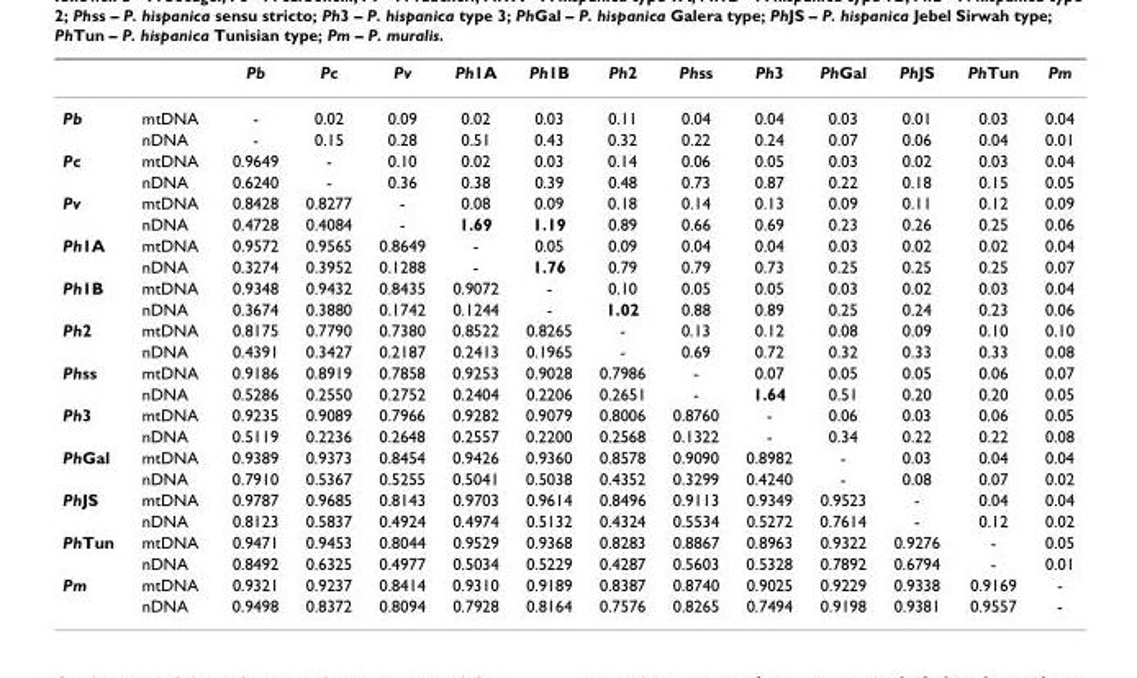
<table><thead><tr><td></td><td></td><td>Pb</td><td>Pc</td><td>Pv</td><td>Ph1A</td><td>Ph1B</td><td>Ph2</td><td>Phss</td><td>Ph3</td><td>PhGal</td><td>PhJS</td><td>PhTun</td><td>Pm</td></tr></thead><tbody><tr><td rowspan="2">Pb</td><td>mtDNA</td><td>-</td><td>0.02</td><td>0.09</td><td>0.02</td><td>0.03</td><td>0.11</td><td>0.04</td><td>0.04</td><td>0.03</td><td>0.01</td><td>0.03</td><td>0.04</td></tr><tr><td>nDNA</td><td>-</td><td>0.15</td><td>0.28</td><td>0.51</td><td>0.43</td><td>0.32</td><td>0.22</td><td>0.24</td><td>0.07</td><td>0.06</td><td>0.04</td><td>0.01</td></tr><tr><td rowspan="2">Pc</td><td>mtDNA</td><td>0.9649</td><td>-</td><td>0.10</td><td>0.02</td><td>0.03</td><td>0.14</td><td>0.06</td><td>0.05</td><td>0.03</td><td>0.02</td><td>0.03</td><td>0.04</td></tr><tr><td>nDNA</td><td>0.6240</td><td>-</td><td>0.36</td><td>0.38</td><td>0.39</td><td>0.48</td><td>0.73</td><td>0.87</td><td>0.22</td><td>0.18</td><td>0.15</td><td>0.05</td></tr><tr><td rowspan="2">Pv</td><td>mtDNA</td><td>0.8428</td><td>0.8277</td><td>-</td><td>0.08</td><td>0.09</td><td>0.18</td><td>0.14</td><td>0.13</td><td>0.09</td><td>0.11</td><td>0.12</td><td>0.09</td></tr><tr><td>nDNA</td><td>0.4728</td><td>0.4084</td><td>-</td><td>1.69</td><td>1.19</td><td>0.89</td><td>0.66</td><td>0.69</td><td>0.23</td><td>0.26</td><td>0.25</td><td>0.06</td></tr><tr><td rowspan="2">Ph1A</td><td>mtDNA</td><td>0.9572</td><td>0.9565</td><td>0.8649</td><td>-</td><td>0.05</td><td>0.09</td><td>0.04</td><td>0.04</td><td>0.03</td><td>0.02</td><td>0.02</td><td>0.04</td></tr><tr><td>nDNA</td><td>0.3274</td><td>0.3952</td><td>0.1288</td><td>-</td><td>1.76</td><td>0.79</td><td>0.79</td><td>0.73</td><td>0.25</td><td>0.25</td><td>0.25</td><td>0.07</td></tr><tr><td rowspan="2">Ph1B</td><td>mtDNA</td><td>0.9348</td><td>0.9432</td><td>0.8435</td><td>0.9072</td><td>-</td><td>0.10</td><td>0.05</td><td>0.05</td><td>0.03</td><td>0.02</td><td>0.03</td><td>0.04</td></tr><tr><td>nDNA</td><td>0.3674</td><td>0.3880</td><td>0.1742</td><td>0.1244</td><td>-</td><td>1.02</td><td>0.88</td><td>0.89</td><td>0.25</td><td>0.24</td><td>0.23</td><td>0.06</td></tr><tr><td rowspan="2">Ph2</td><td>mtDNA</td><td>0.8175</td><td>0.7790</td><td>0.7380</td><td>0.8522</td><td>0.8265</td><td>-</td><td>0.13</td><td>0.12</td><td>0.08</td><td>0.09</td><td>0.10</td><td>0.10</td></tr><tr><td>nDNA</td><td>0.4391</td><td>0.3427</td><td>0.2187</td><td>0.2413</td><td>0.1965</td><td>-</td><td>0.69</td><td>0.72</td><td>0.32</td><td>0.33</td><td>0.33</td><td>0.08</td></tr><tr><td rowspan="2">Phss</td><td>mtDNA</td><td>0.9186</td><td>0.8919</td><td>0.7858</td><td>0.9253</td><td>0.9028</td><td>0.7986</td><td>-</td><td>0.07</td><td>0.05</td><td>0.05</td><td>0.06</td><td>0.07</td></tr><tr><td>nDNA</td><td>0.5286</td><td>0.2550</td><td>0.2752</td><td>0.2404</td><td>0.2206</td><td>0.2651</td><td>-</td><td>1.64</td><td>0.51</td><td>0.20</td><td>0.20</td><td>0.05</td></tr><tr><td rowspan="2">Ph3</td><td>mtDNA</td><td>0.9235</td><td>0.9089</td><td>0.7966</td><td>0.9282</td><td>0.9079</td><td>0.8006</td><td>0.8760</td><td>-</td><td>0.06</td><td>0.03</td><td>0.06</td><td>0.05</td></tr><tr><td>nDNA</td><td>0.5119</td><td>0.2236</td><td>0.2648</td><td>0.2557</td><td>0.2200</td><td>0.2568</td><td>0.1322</td><td>-</td><td>0.34</td><td>0.22</td><td>0.22</td><td>0.08</td></tr><tr><td rowspan="2">PhGal</td><td>mtDNA</td><td>0.9389</td><td>0.9373</td><td>0.8454</td><td>0.9426</td><td>0.9360</td><td>0.8578</td><td>0.9090</td><td>0.8982</td><td>-</td><td>0.03</td><td>0.04</td><td>0.04</td></tr><tr><td>nDNA</td><td>0.7910</td><td>0.5367</td><td>0.5255</td><td>0.5041</td><td>0.5038</td><td>0.4352</td><td>0.3299</td><td>0.4240</td><td>-</td><td>0.08</td><td>0.07</td><td>0.02</td></tr><tr><td rowspan="2">PhJS</td><td>mtDNA</td><td>0.9787</td><td>0.9685</td><td>0.8143</td><td>0.9703</td><td>0.9614</td><td>0.8496</td><td>0.9113</td><td>0.9349</td><td>0.9523</td><td>-</td><td>0.04</td><td>0.04</td></tr><tr><td>nDNA</td><td>0.8123</td><td>0.5837</td><td>0.4924</td><td>0.4974</td><td>0.5132</td><td>0.4324</td><td>0.5534</td><td>0.5272</td><td>0.7614</td><td>-</td><td>0.12</td><td>0.02</td></tr><tr><td rowspan="2">PhTun</td><td>mtDNA</td><td>0.9471</td><td>0.9453</td><td>0.8044</td><td>0.9529</td><td>0.9368</td><td>0.8283</td><td>0.8867</td><td>0.8963</td><td>0.9322</td><td>0.9276</td><td>-</td><td>0.05</td></tr><tr><td>nDNA</td><td>0.8492</td><td>0.6325</td><td>0.4977</td><td>0.5034</td><td>0.5229</td><td>0.4287</td><td>0.5603</td><td>0.5328</td><td>0.7892</td><td>0.6794</td><td>-</td><td>0.01</td></tr><tr><td rowspan="2">Pm</td><td>mtDNA</td><td>0.9321</td><td>0.9237</td><td>0.8414</td><td>0.9310</td><td>0.9189</td><td>0.8387</td><td>0.8740</td><td>0.9025</td><td>0.9229</td><td>0.9338</td><td>0.9169</td><td>-</td></tr><tr><td>nDNA</td><td>0.9498</td><td>0.8372</td><td>0.8094</td><td>0.7928</td><td>0.8164</td><td>0.7576</td><td>0.8265</td><td>0.7494</td><td>0.9198</td><td>0.9381</td><td>0.9557</td><td>-</td></tr></tbody></table>